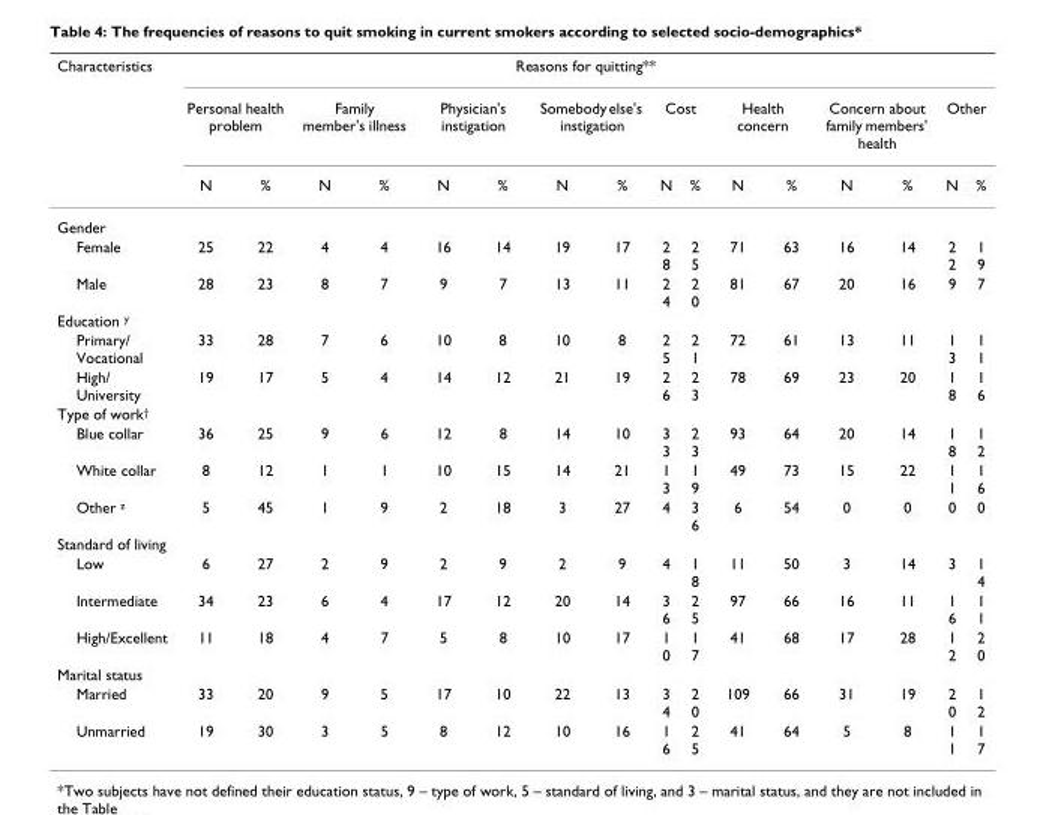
<table><thead><tr><td rowspan="3">Characteristics</td><td colspan="16">Reasons for quitting**</td></tr><tr><td colspan="2">Personal health problem</td><td colspan="2">Family member&#x27;s illness</td><td colspan="2">Physician&#x27;s instigation</td><td colspan="2">Somebody else&#x27;s instigation</td><td colspan="2">Cost</td><td colspan="2">Health concern</td><td colspan="2">Concern about family members&#x27; health</td><td colspan="2">Other</td></tr><tr><td>N</td><td>%</td><td>N</td><td>%</td><td>N</td><td>%</td><td>N</td><td>%</td><td>N</td><td>%</td><td>N</td><td>%</td><td>N</td><td>%</td><td>N</td><td>%</td></tr></thead><tbody><tr><td colspan="17">Gender</td></tr><tr><td>Female</td><td>25</td><td>22</td><td>4</td><td>4</td><td>16</td><td>14</td><td>19</td><td>17</td><td>2 8</td><td>2 5</td><td>71</td><td>63</td><td>16</td><td>14</td><td>2 2</td><td>1 9</td></tr><tr><td>Male</td><td>28</td><td>23</td><td>8</td><td>7</td><td>9</td><td>7</td><td>13</td><td>11</td><td>2 4</td><td>2 0</td><td>81</td><td>67</td><td>20</td><td>16</td><td>9</td><td>7</td></tr><tr><td colspan="17">Education <sup>y</sup></td></tr><tr><td>Primary/ Vocational</td><td>33</td><td>28</td><td>7</td><td>6</td><td>10</td><td>8</td><td>10</td><td>8</td><td>2 5</td><td>2 1</td><td>72</td><td>61</td><td>13</td><td>11</td><td>1 3</td><td>1 1</td></tr><tr><td>High/ University</td><td>19</td><td>17</td><td>5</td><td>4</td><td>14</td><td>12</td><td>21</td><td>19</td><td>2 6</td><td>2 3</td><td>78</td><td>69</td><td>23</td><td>20</td><td>1 8</td><td>1 6</td></tr><tr><td colspan="17">Type of work<sup>†</sup></td></tr><tr><td>Blue collar</td><td>36</td><td>25</td><td>9</td><td>6</td><td>12</td><td>8</td><td>14</td><td>10</td><td>3 3</td><td>2 3</td><td>93</td><td>64</td><td>20</td><td>14</td><td>1 8</td><td>1 2</td></tr><tr><td>White collar</td><td>8</td><td>12</td><td>1</td><td>1</td><td>10</td><td>15</td><td>14</td><td>21</td><td>1 3</td><td>1 9</td><td>49</td><td>73</td><td>15</td><td>22</td><td>1 1</td><td>1 6</td></tr><tr><td>Other <sup>z</sup></td><td>5</td><td>45</td><td>1</td><td>9</td><td>2</td><td>18</td><td>3</td><td>27</td><td>4</td><td>3 6</td><td>6</td><td>54</td><td>0</td><td>0</td><td>0</td><td>0</td></tr><tr><td colspan="17">Standard of living</td></tr><tr><td>Low</td><td>6</td><td>27</td><td>2</td><td>9</td><td>2</td><td>9</td><td>2</td><td>9</td><td>4</td><td>1 8</td><td>11</td><td>50</td><td>3</td><td>14</td><td>3</td><td>1 4</td></tr><tr><td>Intermediate</td><td>34</td><td>23</td><td>6</td><td>4</td><td>17</td><td>12</td><td>20</td><td>14</td><td>3 6</td><td>2 5</td><td>97</td><td>66</td><td>16</td><td>11</td><td>1 6</td><td>1 1</td></tr><tr><td>High/Excellent</td><td>11</td><td>18</td><td>4</td><td>7</td><td>5</td><td>8</td><td>10</td><td>17</td><td>1 0</td><td>1 7</td><td>41</td><td>68</td><td>17</td><td>28</td><td>1 2</td><td>2 0</td></tr><tr><td colspan="17">Marital status</td></tr><tr><td>Married</td><td>33</td><td>20</td><td>9</td><td>5</td><td>17</td><td>10</td><td>22</td><td>13</td><td>3 4</td><td>2 0</td><td>109</td><td>66</td><td>31</td><td>19</td><td>2 0</td><td>1 2</td></tr><tr><td>Unmarried</td><td>19</td><td>30</td><td>3</td><td>5</td><td>8</td><td>12</td><td>10</td><td>16</td><td>1 6</td><td>2 5</td><td>41</td><td>64</td><td>5</td><td>8</td><td>1 1</td><td>1 7</td></tr></tbody></table>